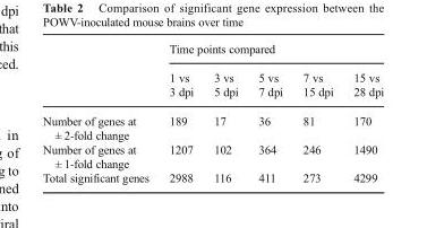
<table><thead><tr><td rowspan="2"></td><td colspan="5">Time points compared</td></tr><tr><td>1 vs 3 dpi</td><td>3 vs 5 dpi</td><td>5 vs 7 dpi</td><td>7 vs 15 dpi</td><td>15 vs 28 dpi</td></tr></thead><tbody><tr><td>Number of genes at ± 2-fold change</td><td>189</td><td>17</td><td>36</td><td>81</td><td>170</td></tr><tr><td>Number of genes at ± 1-fold change</td><td>1207</td><td>102</td><td>364</td><td>246</td><td>1490</td></tr><tr><td>Total significant genes</td><td>2988</td><td>116</td><td>411</td><td>273</td><td>4299</td></tr></tbody></table>